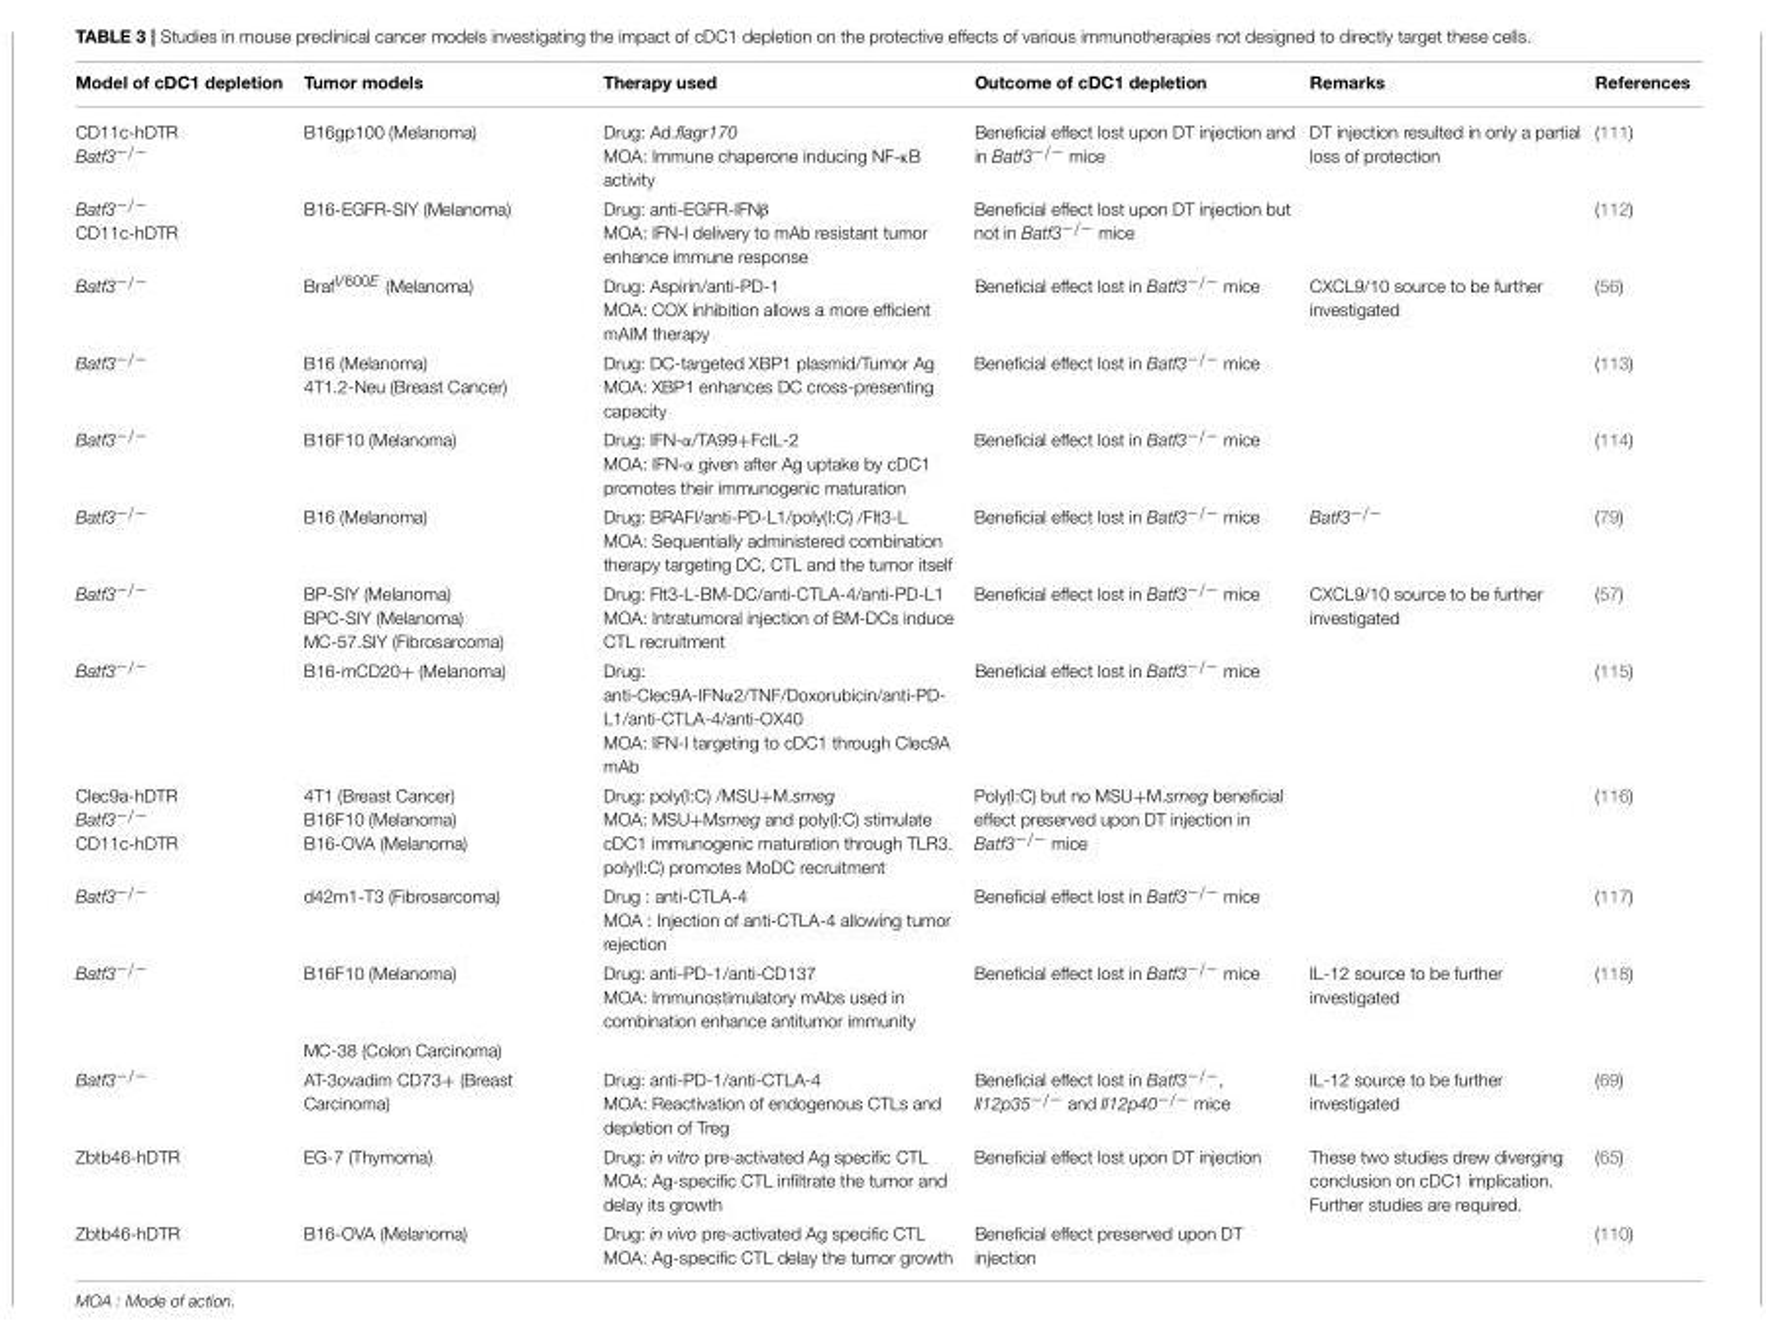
<table><thead><tr><td>Model of cDC1 depletion</td><td>Tumor models</td><td>Therapy used</td><td>Outcome of cDC1 depletion</td><td>Remarks</td><td>References</td></tr></thead><tbody><tr><td>CD11c-hDTR Batf3<sup>−/−</sup></td><td>B16gp100 (Melanoma)</td><td>Drug: Ad.flagr170 MOA: Immune chaperone inducing NF-κB activity</td><td>Beneficial effect lost upon DT injection and in Batf3<sup>−/−</sup> mice</td><td>DT injection resulted in only a partial loss of protection</td><td>(111)</td></tr><tr><td>Batf3<sup>−/−</sup> CD11c-hDTR</td><td>B16-EGFR-SIY (Melanoma)</td><td>Drug: anti-EGFR-IFNβ MOA: IFN-I delivery to mAb resistant tumor enhance immune response</td><td>Beneficial effect lost upon DT injection but not in Batf3<sup>−/−</sup> mice</td><td></td><td>(112)</td></tr><tr><td>Batf3<sup>−/−</sup></td><td>Braf<sup>V600E</sup> (Melanoma)</td><td>Drug: Aspirin/anti-PD-1 MOA: COX inhibition allows a more efficient mAIM therapy</td><td>Beneficial effect lost in Batf3<sup>−/−</sup> mice</td><td>CXCL9/10 source to be further investigated</td><td>(56)</td></tr><tr><td>Batf3<sup>−/−</sup></td><td>B16 (Melanoma) 4T1.2-Neu (Breast Cancer)</td><td>Drug: DC-targeted XBP1 plasmid/Tumor Ag MOA: XBP1 enhances DC cross-presenting capacity</td><td>Beneficial effect lost in Batf3<sup>−/−</sup> mice</td><td></td><td>(113)</td></tr><tr><td>Batf3<sup>−/−</sup></td><td>B16F10 (Melanoma)</td><td>Drug: IFN-α/TA99+FcIL-2 MOA: IFN-α given after Ag uptake by cDC1 promotes their immunogenic maturation</td><td>Beneficial effect lost in Batf3<sup>−/−</sup> mice</td><td></td><td>(114)</td></tr><tr><td>Batf3<sup>−/−</sup></td><td>B16 (Melanoma)</td><td>Drug: BRAFI/anti-PD-L1/poly(I:C) /Flt3-L MOA: Sequentially administered combination therapy targeting DC, CTL and the tumor itself</td><td>Beneficial effect lost in Batf3<sup>−/−</sup> mice</td><td>Batf3<sup>−/−</sup></td><td>(79)</td></tr><tr><td>Batf3<sup>−/−</sup></td><td>BP-SIY (Melanoma) BPC-SIY (Melanoma) MC-57.SIY (Fibrosarcoma)</td><td>Drug: Flt3-L-BM-DC/anti-CTLA-4/anti-PD-L1 MOA: Intratumoral injection of BM-DCs induce CTL recruitment</td><td>Beneficial effect lost in Batf3<sup>−/−</sup> mice</td><td>CXCL9/10 source to be further investigated</td><td>(57)</td></tr><tr><td>Batf3<sup>−/−</sup></td><td>B16-mCD20+ (Melanoma)</td><td>Drug: anti-Clec9A-IFNα2/TNF/Doxorubicin/anti-PD- L1/anti-CTLA-4/anti-OX40 MOA: IFN-I targeting to cDC1 through Clec9A mAb</td><td>Beneficial effect lost in Batf3<sup>−/−</sup> mice</td><td></td><td>(115)</td></tr><tr><td>Clec9a-hDTR Batf3<sup>−/−</sup> CD11c-hDTR</td><td>4T1 (Breast Cancer) B16F10 (Melanoma) B16-OVA (Melanoma)</td><td>Drug: poly(I:C) /MSU+M.smeg MOA: MSU+Msmeg and poly(I:C) stimulate cDC1 immunogenic maturation through TLR3. poly(I:C) promotes MoDC recruitment</td><td>Poly(I:C) but no MSU+M.smeg beneficial effect preserved upon DT injection in Batf3<sup>−/−</sup> mice</td><td></td><td>(116)</td></tr><tr><td>Batf3<sup>−/−</sup></td><td>d42m1-T3 (Fibrosarcoma)</td><td>Drug : anti-CTLA-4 MOA : Injection of anti-CTLA-4 allowing tumor rejection</td><td>Beneficial effect lost in Batf3<sup>−/−</sup> mice</td><td></td><td>(117)</td></tr><tr><td rowspan="2">Batf3<sup>−/−</sup></td><td>B16F10 (Melanoma)</td><td>Drug: anti-PD-1/anti-CD137 MOA: Immunostimulatory mAbs used in combination enhance antitumor immunity</td><td>Beneficial effect lost in Batf3<sup>−/−</sup> mice</td><td>IL-12 source to be further investigated</td><td>(118)</td></tr><tr><td>MC-38 (Colon Carcinoma)</td><td></td><td></td><td></td><td></td></tr><tr><td>Batf3<sup>−/−</sup></td><td>AT-3ovadim CD73+ (Breast Carcinoma)</td><td>Drug: anti-PD-1/anti-CTLA-4 MOA: Reactivation of endogenous CTLs and depletion of Treg</td><td>Beneficial effect lost in Batf3<sup>−/−</sup>, Il12p35<sup>−/−</sup> and Il12p40<sup>−/−</sup> mice</td><td>IL-12 source to be further investigated</td><td>(69)</td></tr><tr><td>Zbtb46-hDTR</td><td>EG-7 (Thymoma)</td><td>Drug: in vitro pre-activated Ag specific CTL MOA: Ag-specific CTL infiltrate the tumor and delay its growth</td><td>Beneficial effect lost upon DT injection</td><td>These two studies drew diverging conclusion on cDC1 implication. Further studies are required.</td><td>(65)</td></tr><tr><td>Zbtb46-hDTR</td><td>B16-OVA (Melanoma)</td><td>Drug: in vivo pre-activated Ag specific CTL MOA: Ag-specific CTL delay the tumor growth</td><td>Beneficial effect preserved upon DT injection</td><td></td><td>(110)</td></tr></tbody></table>